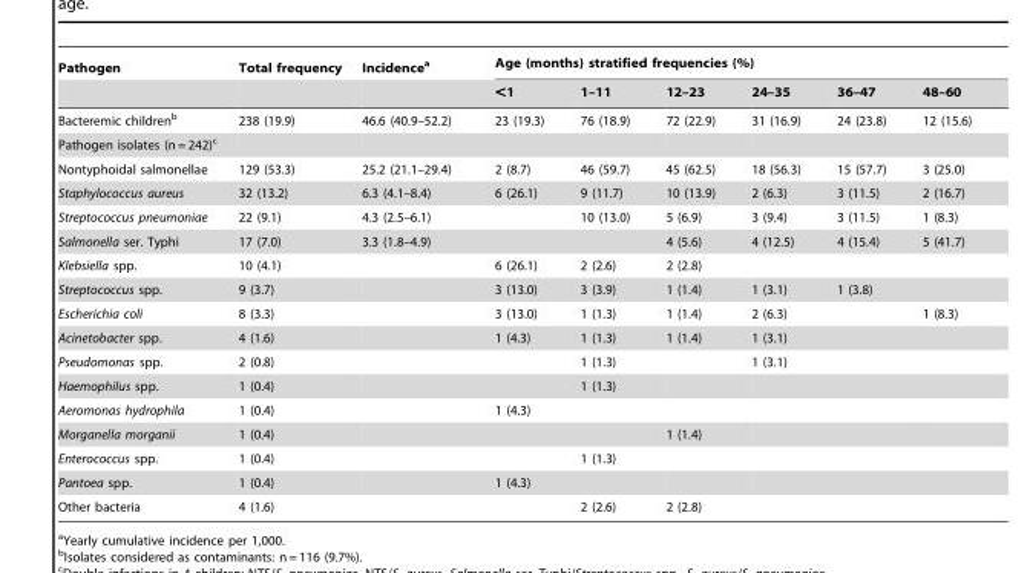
<table><thead><tr><td rowspan="2">Pathogen</td><td rowspan="2">Total frequency</td><td rowspan="2">Incidence<sup>a</sup></td><td colspan="6">Age (months) stratified frequencies (%)</td></tr><tr><td>&lt;1</td><td>1–11</td><td>12–23</td><td>24–35</td><td>36–47</td><td>48–60</td></tr></thead><tbody><tr><td>Bacteremic children<sup>b</sup></td><td>238 (19.9)</td><td>46.6 (40.9–52.2)</td><td>23 (19.3)</td><td>76 (18.9)</td><td>72 (22.9)</td><td>31 (16.9)</td><td>24 (23.8)</td><td>12 (15.6)</td></tr><tr><td colspan="9">Pathogen isolates (n = 242)<sup>c</sup></td></tr><tr><td>Nontyphoidal salmonellae</td><td>129 (53.3)</td><td>25.2 (21.1–29.4)</td><td>2 (8.7)</td><td>46 (59.7)</td><td>45 (62.5)</td><td>18 (56.3)</td><td>15 (57.7)</td><td>3 (25.0)</td></tr><tr><td>Staphylococcus aureus</td><td>32 (13.2)</td><td>6.3 (4.1–8.4)</td><td>6 (26.1)</td><td>9 (11.7)</td><td>10 (13.9)</td><td>2 (6.3)</td><td>3 (11.5)</td><td>2 (16.7)</td></tr><tr><td>Streptococcus pneumoniae</td><td>22 (9.1)</td><td>4.3 (2.5–6.1)</td><td></td><td>10 (13.0)</td><td>5 (6.9)</td><td>3 (9.4)</td><td>3 (11.5)</td><td>1 (8.3)</td></tr><tr><td>Salmonella ser. Typhi</td><td>17 (7.0)</td><td>3.3 (1.8–4.9)</td><td></td><td></td><td>4 (5.6)</td><td>4 (12.5)</td><td>4 (15.4)</td><td>5 (41.7)</td></tr><tr><td>Klebsiella spp.</td><td>10 (4.1)</td><td></td><td>6 (26.1)</td><td>2 (2.6)</td><td>2 (2.8)</td><td></td><td></td><td></td></tr><tr><td>Streptococcus spp.</td><td>9 (3.7)</td><td></td><td>3 (13.0)</td><td>3 (3.9)</td><td>1 (1.4)</td><td>1 (3.1)</td><td>1 (3.8)</td><td></td></tr><tr><td>Escherichia coli</td><td>8 (3.3)</td><td></td><td>3 (13.0)</td><td>1 (1.3)</td><td>1 (1.4)</td><td>2 (6.3)</td><td></td><td>1 (8.3)</td></tr><tr><td>Acinetobacter spp.</td><td>4 (1.6)</td><td></td><td>1 (4.3)</td><td>1 (1.3)</td><td>1 (1.4)</td><td>1 (3.1)</td><td></td><td></td></tr><tr><td>Pseudomonas spp.</td><td>2 (0.8)</td><td></td><td></td><td>1 (1.3)</td><td></td><td>1 (3.1)</td><td></td><td></td></tr><tr><td>Haemophilus spp.</td><td>1 (0.4)</td><td></td><td></td><td>1 (1.3)</td><td></td><td></td><td></td><td></td></tr><tr><td>Aeromonas hydrophila</td><td>1 (0.4)</td><td></td><td>1 (4.3)</td><td></td><td></td><td></td><td></td><td></td></tr><tr><td>Morganella morganii</td><td>1 (0.4)</td><td></td><td></td><td></td><td>1 (1.4)</td><td></td><td></td><td></td></tr><tr><td>Enterococcus spp.</td><td>1 (0.4)</td><td></td><td></td><td>1 (1.3)</td><td></td><td></td><td></td><td></td></tr><tr><td>Pantoea spp.</td><td>1 (0.4)</td><td></td><td>1 (4.3)</td><td></td><td></td><td></td><td></td><td></td></tr><tr><td>Other bacteria</td><td>4 (1.6)</td><td></td><td></td><td>2 (2.6)</td><td>2 (2.8)</td><td></td><td></td><td></td></tr></tbody></table>